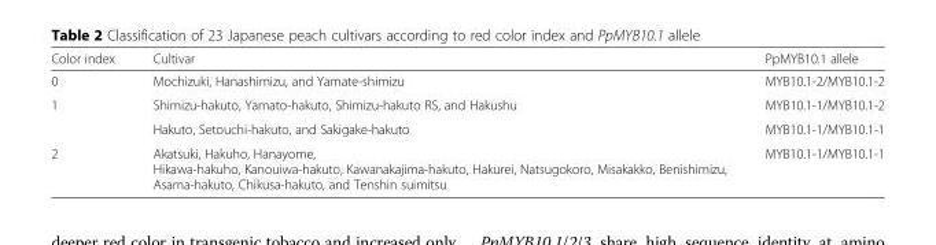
<table><thead><tr><td>Color index</td><td>Cultivar</td><td>PpMYB10.1 allele</td></tr></thead><tbody><tr><td>0</td><td>Mochizuki, Hanashimizu, and Yamate-shimizu</td><td>MYB10.1-2/MYB10.1-2</td></tr><tr><td rowspan="2">1</td><td>Shimizu-hakuto, Yamato-hakuto, Shimizu-hakuto RS, and Hakushu</td><td>MYB10.1-1/MYB10.1-2</td></tr><tr><td>Hakuto, Setouchi-hakuto, and Sakigake-hakuto</td><td>MYB10.1-1/MYB10.1-1</td></tr><tr><td>2</td><td>Akatsuki, Hakuho, Hanayome, Hikawa-hakuho, Kanouiwa-hakuto, Kawanakajima-hakuto, Hakurei, Natsugokoro, Misakakko, Benishimizu, Asama-hakuto, Chikusa-hakuto, and Tenshin suimitsu</td><td>MYB10.1-1/MYB10.1-1</td></tr></tbody></table>